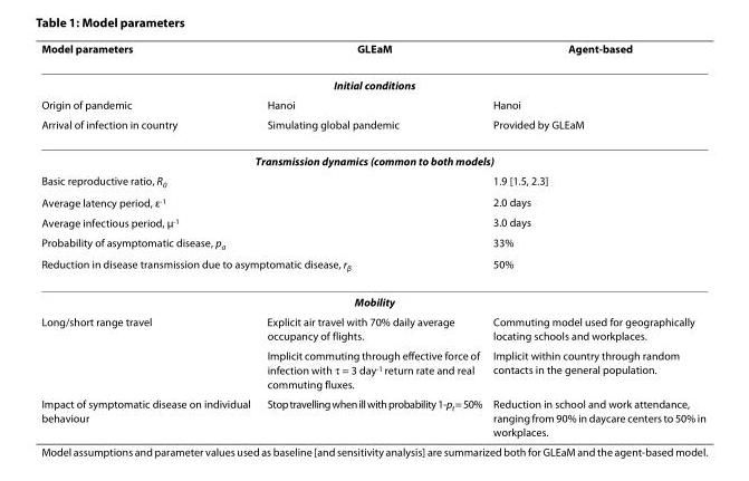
<table><thead><tr><td>Model parameters</td><td>GLEaM</td><td>Agent-based</td></tr></thead><tbody><tr><td colspan="3">Initial conditions</td></tr><tr><td>Origin of pandemic</td><td>Hanoi</td><td>Hanoi</td></tr><tr><td>Arrival of infection in country</td><td>Simulating global pandemic</td><td>Provided by GLEaM</td></tr><tr><td colspan="3">Transmission dynamics (common to both models)</td></tr><tr><td colspan="2">Basic reproductive ratio, R<sub>0</sub></td><td>1.9 [1.5, 2.3]</td></tr><tr><td colspan="2">Average latency period, ε<sup>-1</sup></td><td>2.0 days</td></tr><tr><td colspan="2">Average infectious period, μ<sup>-1</sup></td><td>3.0 days</td></tr><tr><td colspan="2">Probability of asymptomatic disease, p<sub>a</sub></td><td>33%</td></tr><tr><td colspan="2">Reduction in disease transmission due to asymptomatic disease, r<sub>β</sub></td><td>50%</td></tr><tr><td colspan="3">Mobility</td></tr><tr><td rowspan="2">Long/short range travel</td><td>Explicit air travel with 70% daily average occupancy of flights.</td><td>Commuting model used for geographically locating schools and workplaces.</td></tr><tr><td>Implicit commuting through effective force of infection with τ = 3 day<sup>-1</sup> return rate and real commuting fluxes.</td><td>Implicit within country through random contacts in the general population.</td></tr><tr><td>Impact of symptomatic disease on individual behaviour</td><td>Stop travelling when ill with probability 1-p<sub>t</sub> = 50%</td><td>Reduction in school and work attendance, ranging from 90% in daycare centers to 50% in workplaces.</td></tr></tbody></table>